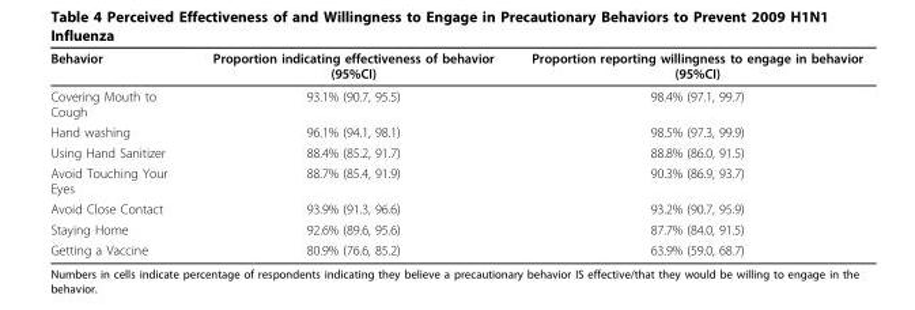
<table><thead><tr><td>Behavior</td><td>Proportion indicating effectiveness of behavior (95%CI)</td><td>Proportion reporting willingness to engage in behavior (95%CI)</td></tr></thead><tbody><tr><td>Covering Mouth to Cough</td><td>93.1% (90.7, 95.5)</td><td>98.4% (97.1, 99.7)</td></tr><tr><td>Hand washing</td><td>96.1% (94.1, 98.1)</td><td>98.5% (97.3, 99.9)</td></tr><tr><td>Using Hand Sanitizer</td><td>88.4% (85.2, 91.7)</td><td>88.8% (86.0, 91.5)</td></tr><tr><td>Avoid Touching Your Eyes</td><td>88.7% (85.4, 91.9)</td><td>90.3% (86.9, 93.7)</td></tr><tr><td>Avoid Close Contact</td><td>93.9% (91.3, 96.6)</td><td>93.2% (90.7, 95.9)</td></tr><tr><td>Staying Home</td><td>92.6% (89.6, 95.6)</td><td>87.7% (84.0, 91.5)</td></tr><tr><td>Getting a Vaccine</td><td>80.9% (76.6, 85.2)</td><td>63.9% (59.0, 68.7)</td></tr></tbody></table>